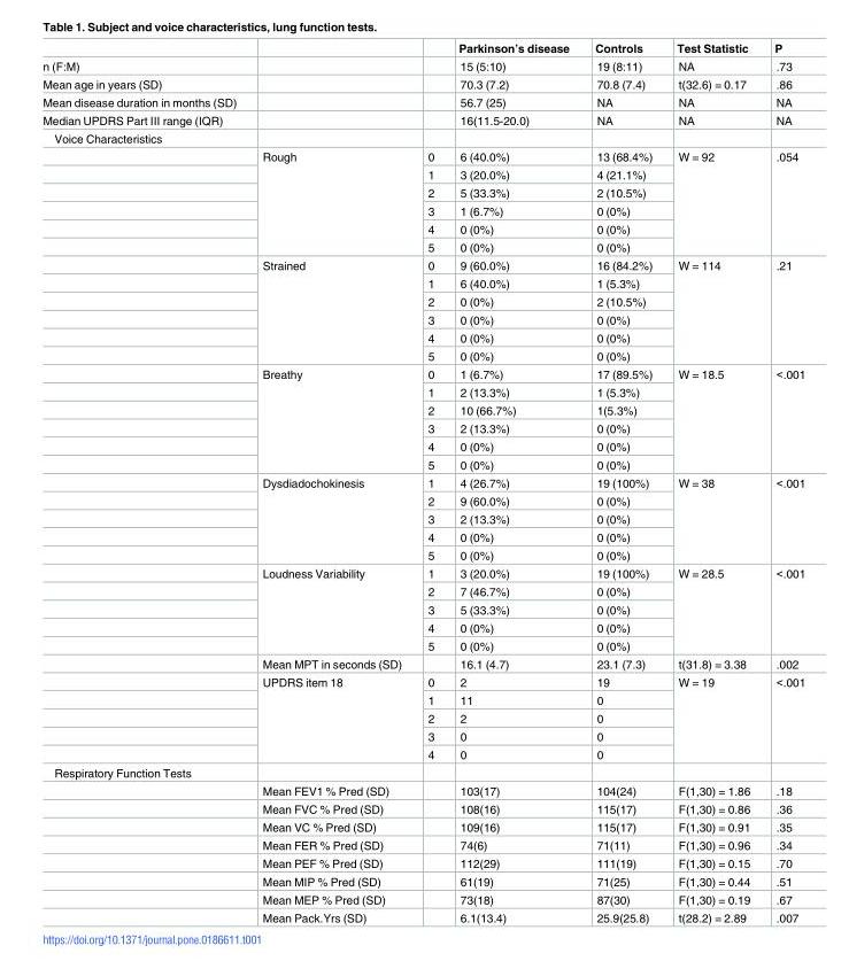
<table><thead><tr><td></td><td></td><td></td><td>Parkinson’s disease</td><td>Controls</td><td>Test Statistic</td><td>P</td></tr></thead><tbody><tr><td>n (F:M)</td><td></td><td></td><td>15 (5:10)</td><td>19 (8:11)</td><td>NA</td><td>.73</td></tr><tr><td>Mean age in years (SD)</td><td></td><td></td><td>70.3 (7.2)</td><td>70.8 (7.4)</td><td>t(32.6) = 0.17</td><td>.86</td></tr><tr><td>Mean disease duration in months (SD)</td><td></td><td></td><td>56.7 (25)</td><td>NA</td><td>NA</td><td>NA</td></tr><tr><td>Median UPDRS Part III range (IQR)</td><td></td><td></td><td>16(11.5-20.0)</td><td>NA</td><td>NA</td><td>NA</td></tr><tr><td colspan="7">Voice Characteristics</td></tr><tr><td></td><td rowspan="6">Rough</td><td>0</td><td>6 (40.0%)</td><td>13 (68.4%)</td><td rowspan="6">W = 92</td><td rowspan="6">.054</td></tr><tr><td></td><td>1</td><td>3 (20.0%)</td><td>4 (21.1%)</td></tr><tr><td></td><td>2</td><td>5 (33.3%)</td><td>2 (10.5%)</td></tr><tr><td></td><td>3</td><td>1 (6.7%)</td><td>0 (0%)</td></tr><tr><td></td><td>4</td><td>0 (0%)</td><td>0 (0%)</td></tr><tr><td></td><td>5</td><td>0 (0%)</td><td>0 (0%)</td></tr><tr><td></td><td rowspan="6">Strained</td><td>0</td><td>9 (60.0%)</td><td>16 (84.2%)</td><td rowspan="6">W = 114</td><td rowspan="6">.21</td></tr><tr><td></td><td>1</td><td>6 (40.0%)</td><td>1 (5.3%)</td></tr><tr><td></td><td>2</td><td>0 (0%)</td><td>2 (10.5%)</td></tr><tr><td></td><td>3</td><td>0 (0%)</td><td>0 (0%)</td></tr><tr><td></td><td>4</td><td>0 (0%)</td><td>0 (0%)</td></tr><tr><td></td><td>5</td><td>0 (0%)</td><td>0 (0%)</td></tr><tr><td></td><td rowspan="6">Breathy</td><td>0</td><td>1 (6.7%)</td><td>17 (89.5%)</td><td rowspan="6">W = 18.5</td><td rowspan="6">&lt;.001</td></tr><tr><td></td><td>1</td><td>2 (13.3%)</td><td>1 (5.3%)</td></tr><tr><td></td><td>2</td><td>10 (66.7%)</td><td>1(5.3%)</td></tr><tr><td></td><td>3</td><td>2 (13.3%)</td><td>0 (0%)</td></tr><tr><td></td><td>4</td><td>0 (0%)</td><td>0 (0%)</td></tr><tr><td></td><td>5</td><td>0 (0%)</td><td>0 (0%)</td></tr><tr><td></td><td rowspan="5">Dysdiadochokinesis</td><td>1</td><td>4 (26.7%)</td><td>19 (100%)</td><td rowspan="5">W = 38</td><td rowspan="5">&lt;.001</td></tr><tr><td></td><td>2</td><td>9 (60.0%)</td><td>0 (0%)</td></tr><tr><td></td><td>3</td><td>2 (13.3%)</td><td>0 (0%)</td></tr><tr><td></td><td>4</td><td>0 (0%)</td><td>0 (0%)</td></tr><tr><td></td><td>5</td><td>0 (0%)</td><td>0 (0%)</td></tr><tr><td></td><td rowspan="5">Loudness Variability</td><td>1</td><td>3 (20.0%)</td><td>19 (100%)</td><td rowspan="5">W = 28.5</td><td rowspan="5">&lt;.001</td></tr><tr><td></td><td>2</td><td>7 (46.7%)</td><td>0 (0%)</td></tr><tr><td></td><td>3</td><td>5 (33.3%)</td><td>0 (0%)</td></tr><tr><td></td><td>4</td><td>0 (0%)</td><td>0 (0%)</td></tr><tr><td></td><td>5</td><td>0 (0%)</td><td>0 (0%)</td></tr><tr><td></td><td>Mean MPT in seconds (SD)</td><td></td><td>16.1 (4.7)</td><td>23.1 (7.3)</td><td>t(31.8) = 3.38</td><td>.002</td></tr><tr><td></td><td rowspan="5">UPDRS item 18</td><td>0</td><td>2</td><td>19</td><td rowspan="5">W = 19</td><td rowspan="5">&lt;.001</td></tr><tr><td></td><td>1</td><td>11</td><td>0</td></tr><tr><td></td><td>2</td><td>2</td><td>0</td></tr><tr><td></td><td>3</td><td>0</td><td>0</td></tr><tr><td></td><td>4</td><td>0</td><td>0</td></tr><tr><td colspan="7">Respiratory Function Tests</td></tr><tr><td></td><td>Mean FEV1 % Pred (SD)</td><td></td><td>103(17)</td><td>104(24)</td><td>F(1,30) = 1.86</td><td>.18</td></tr><tr><td></td><td>Mean FVC % Pred (SD)</td><td></td><td>108(16)</td><td>115(17)</td><td>F(1,30) = 0.86</td><td>.36</td></tr><tr><td></td><td>Mean VC % Pred (SD)</td><td></td><td>109(16)</td><td>115(17)</td><td>F(1,30) = 0.91</td><td>.35</td></tr><tr><td></td><td>Mean FER % Pred (SD)</td><td></td><td>74(6)</td><td>71(11)</td><td>F(1,30) = 0.96</td><td>.34</td></tr><tr><td></td><td>Mean PEF % Pred (SD)</td><td></td><td>112(29)</td><td>111(19)</td><td>F(1,30) = 0.15</td><td>.70</td></tr><tr><td></td><td>Mean MIP % Pred (SD)</td><td></td><td>61(19)</td><td>71(25)</td><td>F(1,30) = 0.44</td><td>.51</td></tr><tr><td></td><td>Mean MEP % Pred (SD)</td><td></td><td>73(18)</td><td>87(30)</td><td>F(1,30) = 0.19</td><td>.67</td></tr><tr><td></td><td>Mean Pack.Yrs (SD)</td><td></td><td>6.1(13.4)</td><td>25.9(25.8)</td><td>t(28.2) = 2.89</td><td>.007</td></tr></tbody></table>